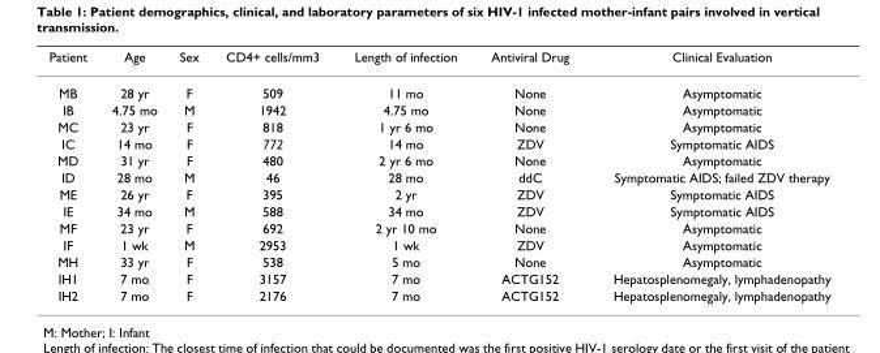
<table><thead><tr><td>Patient</td><td>Age</td><td>Sex</td><td>CD4+ cells/mm3</td><td>Length of infection</td><td>Antiviral Drug</td><td>Clinical Evaluation</td></tr></thead><tbody><tr><td>MB</td><td>28 yr</td><td>F</td><td>509</td><td>11 mo</td><td>None</td><td>Asymptomatic</td></tr><tr><td>IB</td><td>4.75 mo</td><td>M</td><td>1942</td><td>4.75 mo</td><td>None</td><td>Asymptomatic</td></tr><tr><td>MC</td><td>23 yr</td><td>F</td><td>818</td><td>1 yr 6 mo</td><td>None</td><td>Asymptomatic</td></tr><tr><td>IC</td><td>14 mo</td><td>F</td><td>772</td><td>14 mo</td><td>ZDV</td><td>Symptomatic AIDS</td></tr><tr><td>MD</td><td>31 yr</td><td>F</td><td>480</td><td>2 yr 6 mo</td><td>None</td><td>Asymptomatic</td></tr><tr><td>ID</td><td>28 mo</td><td>M</td><td>46</td><td>28 mo</td><td>ddC</td><td>Symptomatic AIDS; failed ZDV therapy</td></tr><tr><td>ME</td><td>26 yr</td><td>F</td><td>395</td><td>2 yr</td><td>ZDV</td><td>Symptomatic AIDS</td></tr><tr><td>IE</td><td>34 mo</td><td>M</td><td>588</td><td>34 mo</td><td>ZDV</td><td>Symptomatic AIDS</td></tr><tr><td>MF</td><td>23 yr</td><td>F</td><td>692</td><td>2 yr 10 mo</td><td>None</td><td>Asymptomatic</td></tr><tr><td>IF</td><td>1 wk</td><td>M</td><td>2953</td><td>1 wk</td><td>ZDV</td><td>Asymptomatic</td></tr><tr><td>MH</td><td>33 yr</td><td>F</td><td>538</td><td>5 mo</td><td>None</td><td>Asymptomatic</td></tr><tr><td>IH1</td><td>7 mo</td><td>F</td><td>3157</td><td>7 mo</td><td>ACTG152</td><td>Hepatosplenomegaly, lymphadenopathy</td></tr><tr><td>IH2</td><td>7 mo</td><td>F</td><td>2176</td><td>7 mo</td><td>ACTG152</td><td>Hepatosplenomegaly, lymphadenopathy</td></tr></tbody></table>